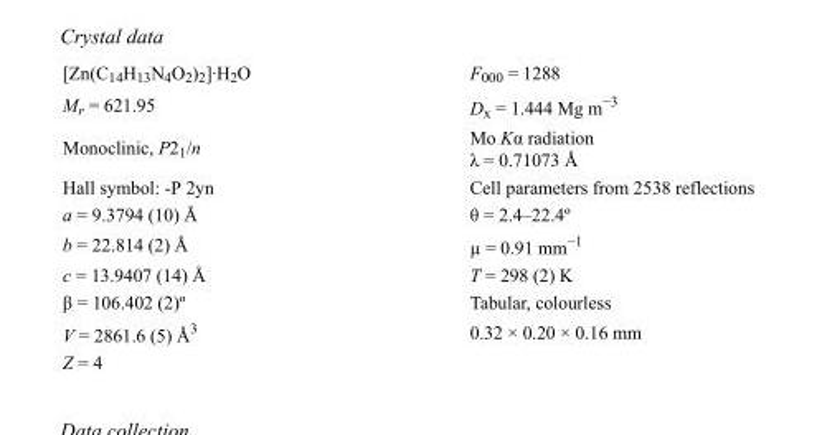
<table><tbody><tr><td>[Zn(C<sub>14</sub>H<sub>13</sub>N<sub>4</sub>O<sub>2</sub>)<sub>2</sub>]·H<sub>2</sub>O</td><td>F<sub>000</sub> = 1288</td></tr><tr><td>M<sub>r</sub> = 621.95</td><td>D<sub>x</sub> = 1.444 Mg m<sup>−3</sup></td></tr><tr><td>Monoclinic, P2<sub>1</sub>/n</td><td>Mo Kα radiation λ = 0.71073 Å</td></tr><tr><td>Hall symbol: -P 2yn</td><td>Cell parameters from 2538 reflections</td></tr><tr><td>a = 9.3794 (10) Å</td><td>θ = 2.4–22.4º</td></tr><tr><td>b = 22.814 (2) Å</td><td>µ = 0.91 mm<sup>−1</sup></td></tr><tr><td>c = 13.9407 (14) Å</td><td>T = 298 (2) K</td></tr><tr><td>β = 106.402 (2)º</td><td>Tabular, colourless</td></tr><tr><td>V = 2861.6 (5) Å<sup>3</sup></td><td>0.32 × 0.20 × 0.16 mm</td></tr><tr><td>Z = 4</td><td></td></tr></tbody></table>